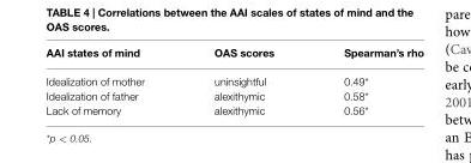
<table><thead><tr><td>AAI states of mind</td><td>OAS scores</td><td>Spearman’s rho</td></tr></thead><tbody><tr><td>Idealization of mother</td><td>uninsightful</td><td>0.49*</td></tr><tr><td>Idealization of father</td><td>alexithymic</td><td>0.58*</td></tr><tr><td>Lack of memory</td><td>alexithymic</td><td>0.56*</td></tr></tbody></table>